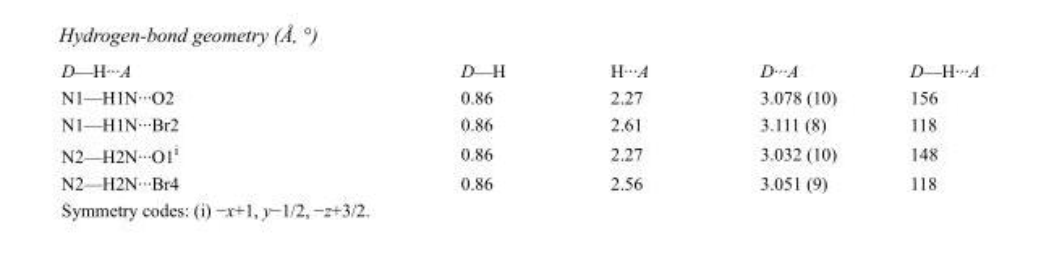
<table><tbody><tr><td>D—H···A</td><td>D—H</td><td>H···A</td><td>D···A</td><td>D—H···A</td></tr><tr><td>N1—H1N···O2</td><td>0.86</td><td>2.27</td><td>3.078 (10)</td><td>156</td></tr><tr><td>N1—H1N···Br2</td><td>0.86</td><td>2.61</td><td>3.111 (8)</td><td>118</td></tr><tr><td>N2—H2N···O1<sup>i</sup></td><td>0.86</td><td>2.27</td><td>3.032 (10)</td><td>148</td></tr><tr><td>N2—H2N···Br4</td><td>0.86</td><td>2.56</td><td>3.051 (9)</td><td>118</td></tr></tbody></table>